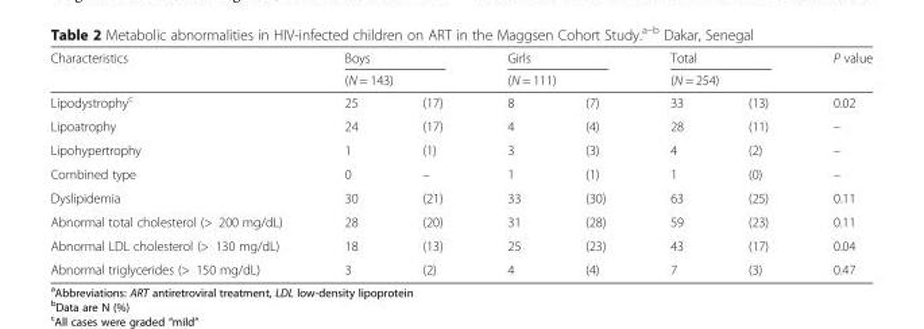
<table><thead><tr><td rowspan="3">Characteristics Lipodystrophy<sup>c</sup></td><td rowspan="2" colspan="2">Boys (N = 143)</td><td rowspan="2" colspan="2">Girls (N = 111)</td><td rowspan="2" colspan="2">Total (N = 254)</td><td rowspan="3">P value 0.02</td></tr><tr></tr><tr><td>25</td><td>(17)</td><td>8</td><td>(7)</td><td>33</td><td>(13)</td></tr></thead><tbody><tr><td>Lipoatrophy</td><td>24</td><td>(17)</td><td>4</td><td>(4)</td><td>28</td><td>(11)</td><td>–</td></tr><tr><td>Lipohypertrophy</td><td>1</td><td>(1)</td><td>3</td><td>(3)</td><td>4</td><td>(2)</td><td>–</td></tr><tr><td>Combined type</td><td>0</td><td>–</td><td>1</td><td>(1)</td><td>1</td><td>(0)</td><td>–</td></tr><tr><td>Dyslipidemia</td><td>30</td><td>(21)</td><td>33</td><td>(30)</td><td>63</td><td>(25)</td><td>0.11</td></tr><tr><td>Abnormal total cholesterol (&gt; 200 mg/dL)</td><td>28</td><td>(20)</td><td>31</td><td>(28)</td><td>59</td><td>(23)</td><td>0.11</td></tr><tr><td>Abnormal LDL cholesterol (&gt; 130 mg/dL)</td><td>18</td><td>(13)</td><td>25</td><td>(23)</td><td>43</td><td>(17)</td><td>0.04</td></tr><tr><td>Abnormal triglycerides (&gt; 150 mg/dL)</td><td>3</td><td>(2)</td><td>4</td><td>(4)</td><td>7</td><td>(3)</td><td>0.47</td></tr></tbody></table>